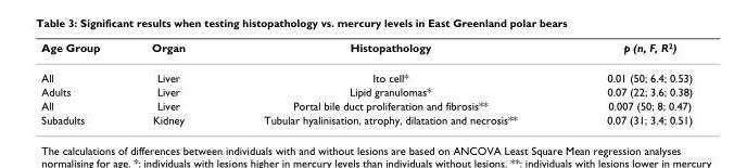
<table><thead><tr><td>Age Group</td><td>Organ</td><td>Histopathology</td><td>p (n, F, R<sup>2</sup>)</td></tr></thead><tbody><tr><td>All</td><td>Liver</td><td>Ito cell*</td><td>0.01 (50; 6.4; 0.53)</td></tr><tr><td>Adults</td><td>Liver</td><td>Lipid granulomas*</td><td>0.07 (22; 3.6; 0.38)</td></tr><tr><td>All</td><td>Liver</td><td>Portal bile duct proliferation and fibrosis**</td><td>0.007 (50; 8; 0.47)</td></tr><tr><td>Subadults</td><td>Kidney</td><td>Tubular hyalinisation, atrophy, dilatation and necrosis**</td><td>0.07 (31; 3.4; 0.51)</td></tr></tbody></table>